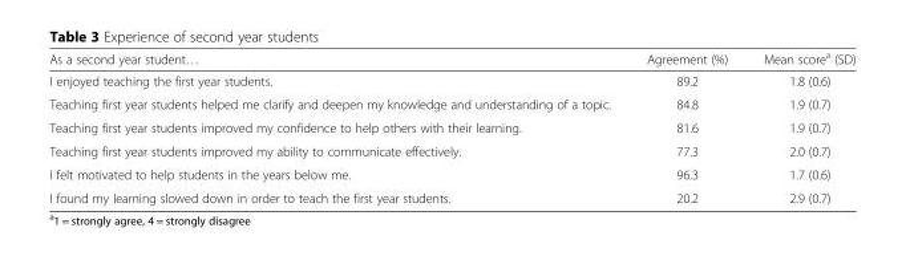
<table><thead><tr><td>As a second year student…</td><td>Agreement (%)</td><td>Mean score<sup>a</sup> (SD)</td></tr></thead><tbody><tr><td>I enjoyed teaching the first year students.</td><td>89.2</td><td>1.8 (0.6)</td></tr><tr><td>Teaching first year students helped me clarify and deepen my knowledge and understanding of a topic.</td><td>84.8</td><td>1.9 (0.7)</td></tr><tr><td>Teaching first year students improved my confidence to help others with their learning.</td><td>81.6</td><td>1.9 (0.7)</td></tr><tr><td>Teaching first year students improved my ability to communicate effectively.</td><td>77.3</td><td>2.0 (0.7)</td></tr><tr><td>I felt motivated to help students in the years below me.</td><td>96.3</td><td>1.7 (0.6)</td></tr><tr><td>I found my learning slowed down in order to teach the first year students.</td><td>20.2</td><td>2.9 (0.7)</td></tr></tbody></table>